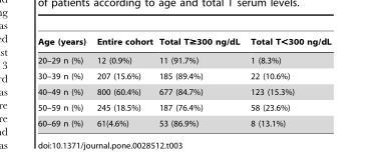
<table><thead><tr><td>Age (years)</td><td>Entire cohort</td><td>Total T≥300 ng/dL</td><td>Total T&lt;300 ng/dL</td></tr></thead><tbody><tr><td>20–29 n (%)</td><td>12 (0.9%)</td><td>11 (91.7%)</td><td>1 (8.3%)</td></tr><tr><td>30–39 n (%)</td><td>207 (15.6%)</td><td>185 (89.4%)</td><td>22 (10.6%)</td></tr><tr><td>40–49 n (%)</td><td>800 (60.4%)</td><td>677 (84.7%)</td><td>123 (15.3%)</td></tr><tr><td>50–59 n (%)</td><td>245 (18.5%)</td><td>187 (76.4%)</td><td>58 (23.6%)</td></tr><tr><td>60–69 n (%)</td><td>61(4.6%)</td><td>53 (86.9%)</td><td>8 (13.1%)</td></tr></tbody></table>